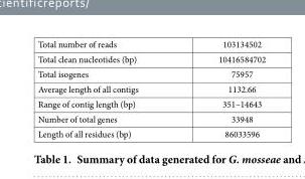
<table><tbody><tr><td>Total number of reads</td><td>103134502</td></tr><tr><td>Total clean nucleotides (bp)</td><td>10416584702</td></tr><tr><td>Total isogenes</td><td>75957</td></tr><tr><td>Average length of all contigs</td><td>1132.66</td></tr><tr><td>Range of contig length (bp)</td><td>351–14643</td></tr><tr><td>Number of total genes</td><td>33948</td></tr><tr><td>Length of all residues (bp)</td><td>86033596</td></tr></tbody></table>